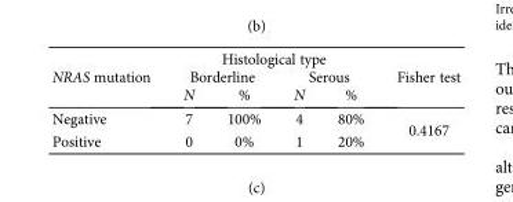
<table><thead><tr><td rowspan="3">NRAS mutation</td><td colspan="4">Histological type</td><td rowspan="3">Fisher test</td></tr><tr><td colspan="2">Borderline</td><td colspan="2">Serous</td></tr><tr><td>N</td><td>%</td><td>N</td><td>%</td></tr></thead><tbody><tr><td>Negative</td><td>7</td><td>100%</td><td>4</td><td>80%</td><td rowspan="2">0.4167</td></tr><tr><td>Positive</td><td>0</td><td>0%</td><td>1</td><td>20%</td></tr></tbody></table>